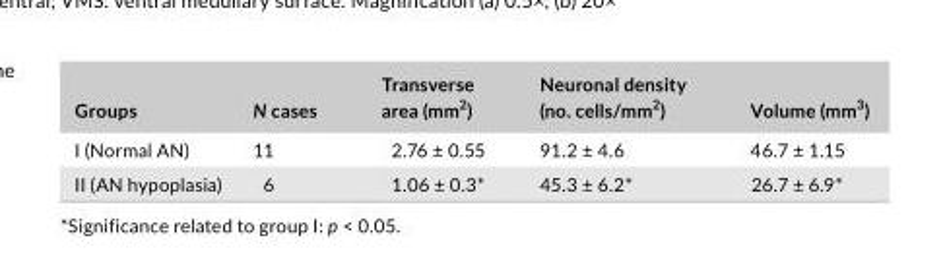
<table><thead><tr><td>Groups</td><td>N cases</td><td>Transverse area (mm<sup>2</sup>)</td><td>Neuronal density (no. cells/mm<sup>2</sup>)</td><td>Volume (mm<sup>3</sup>)</td></tr></thead><tbody><tr><td>I (Normal AN)</td><td>11</td><td>2.76 ± 0.55</td><td>91.2 ± 4.6</td><td>46.7 ± 1.15</td></tr><tr><td>II (AN hypoplasia)</td><td>6</td><td>1.06 ± 0.3*</td><td>45.3 ± 6.2*</td><td>26.7 ± 6.9*</td></tr></tbody></table>